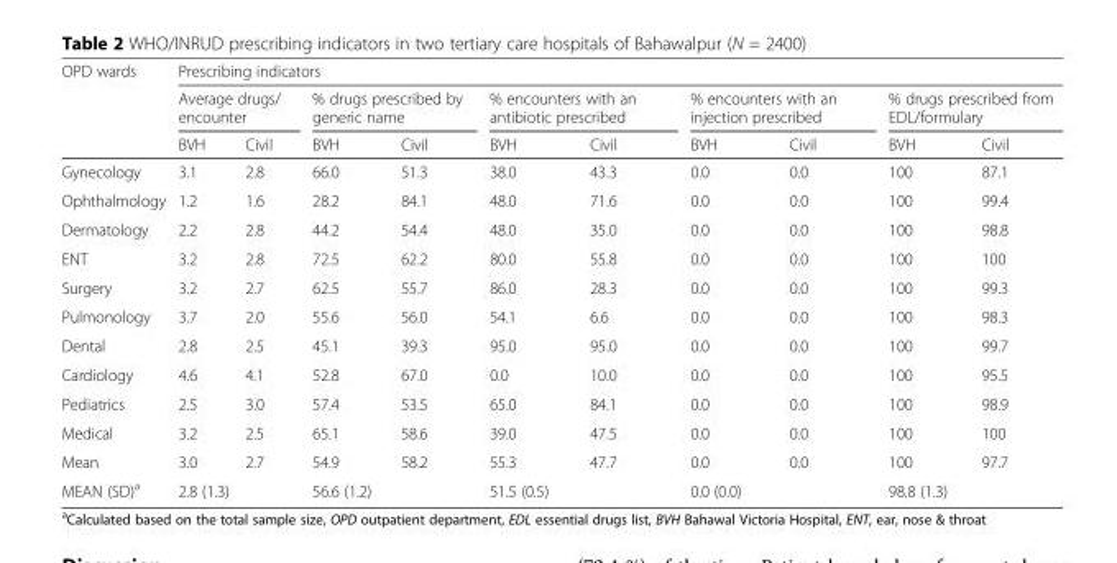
<table><thead><tr><td rowspan="3">OPD wards</td><td colspan="10">Prescribing indicators</td></tr><tr><td colspan="2">Average drugs/ encounter</td><td colspan="2">% drugs prescribed by generic name</td><td colspan="2">% encounters with an antibiotic prescribed</td><td colspan="2">% encounters with an injection prescribed</td><td colspan="2">% drugs prescribed from EDL/formulary</td></tr><tr><td>BVH</td><td>Civil</td><td>BVH</td><td>Civil</td><td>BVH</td><td>Civil</td><td>BVH</td><td>Civil</td><td>BVH</td><td>Civil</td></tr></thead><tbody><tr><td>Gynecology</td><td>3.1</td><td>2.8</td><td>66.0</td><td>51.3</td><td>38.0</td><td>43.3</td><td>0.0</td><td>0.0</td><td>100</td><td>87.1</td></tr><tr><td>Ophthalmology</td><td>1.2</td><td>1.6</td><td>28.2</td><td>84.1</td><td>48.0</td><td>71.6</td><td>0.0</td><td>0.0</td><td>100</td><td>99.4</td></tr><tr><td>Dermatology</td><td>2.2</td><td>2.8</td><td>44.2</td><td>54.4</td><td>48.0</td><td>35.0</td><td>0.0</td><td>0.0</td><td>100</td><td>98.8</td></tr><tr><td>ENT</td><td>3.2</td><td>2.8</td><td>72.5</td><td>62.2</td><td>80.0</td><td>55.8</td><td>0.0</td><td>0.0</td><td>100</td><td>100</td></tr><tr><td>Surgery</td><td>3.2</td><td>2.7</td><td>62.5</td><td>55.7</td><td>86.0</td><td>28.3</td><td>0.0</td><td>0.0</td><td>100</td><td>99.3</td></tr><tr><td>Pulmonology</td><td>3.7</td><td>2.0</td><td>55.6</td><td>56.0</td><td>54.1</td><td>6.6</td><td>0.0</td><td>0.0</td><td>100</td><td>98.3</td></tr><tr><td>Dental</td><td>2.8</td><td>2.5</td><td>45.1</td><td>39.3</td><td>95.0</td><td>95.0</td><td>0.0</td><td>0.0</td><td>100</td><td>99.7</td></tr><tr><td>Cardiology</td><td>4.6</td><td>4.1</td><td>52.8</td><td>67.0</td><td>0.0</td><td>10.0</td><td>0.0</td><td>0.0</td><td>100</td><td>95.5</td></tr><tr><td>Pediatrics</td><td>2.5</td><td>3.0</td><td>57.4</td><td>53.5</td><td>65.0</td><td>84.1</td><td>0.0</td><td>0.0</td><td>100</td><td>98.9</td></tr><tr><td>Medical</td><td>3.2</td><td>2.5</td><td>65.1</td><td>58.6</td><td>39.0</td><td>47.5</td><td>0.0</td><td>0.0</td><td>100</td><td>100</td></tr><tr><td>Mean</td><td>3.0</td><td>2.7</td><td>54.9</td><td>58.2</td><td>55.3</td><td>47.7</td><td>0.0</td><td>0.0</td><td>100</td><td>97.7</td></tr><tr><td>MEAN (SD)<sup>a</sup></td><td colspan="2">2.8 (1.3)</td><td colspan="2">56.6 (1.2)</td><td colspan="2">51.5 (0.5)</td><td colspan="2">0.0 (0.0)</td><td colspan="2">98.8 (1.3)</td></tr></tbody></table>